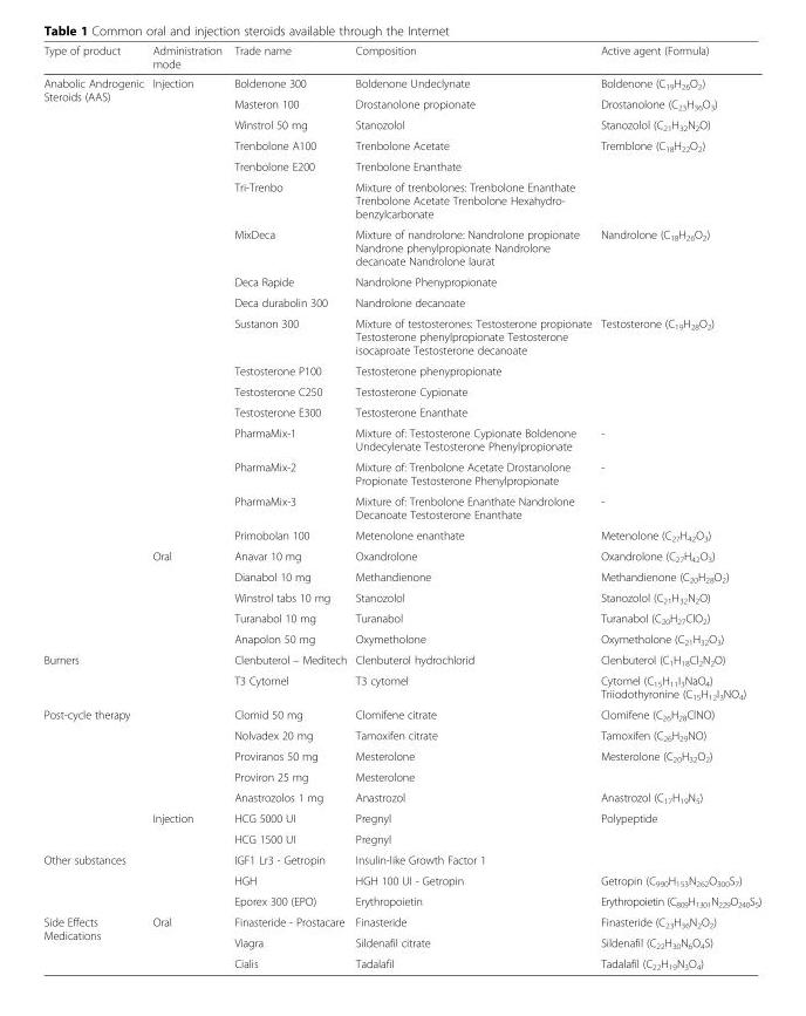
<table><thead><tr><td>Type of product</td><td>Administration mode</td><td>Trade name</td><td>Composition</td><td>Active agent (Formula)</td></tr></thead><tbody><tr><td rowspan="22">Anabolic Androgenic Steroids (AAS)</td><td rowspan="17">Injection</td><td>Boldenone 300</td><td>Boldenone Undeclynate</td><td>Boldenone (C<sub>19</sub>H<sub>26</sub>O<sub>2</sub>)</td></tr><tr><td>Masteron 100</td><td>Drostanolone propionate</td><td>Drostanolone (C<sub>23</sub>H<sub>36</sub>O<sub>3</sub>)</td></tr><tr><td>Winstrol 50 mg</td><td>Stanozolol</td><td>Stanozolol (C<sub>21</sub>H<sub>32</sub>N<sub>2</sub>O)</td></tr><tr><td>Trenbolone A100</td><td>Trenbolone Acetate</td><td rowspan="3">Tremblone (C<sub>18</sub>H<sub>22</sub>O<sub>2</sub>)</td></tr><tr><td>Trenbolone E200</td><td>Trenbolone Enanthate</td></tr><tr><td>Tri-Trenbo</td><td>Mixture of trenbolones: Trenbolone Enanthate Trenbolone Acetate Trenbolone Hexahydro- benzylcarbonate</td></tr><tr><td>MixDeca</td><td>Mixture of nandrolone: Nandrolone propionate Nandrone phenylpropionate Nandrolone decanoate Nandrolone laurat</td><td rowspan="3">Nandrolone (C<sub>18</sub>H<sub>26</sub>O<sub>2</sub>)</td></tr><tr><td>Deca Rapide</td><td>Nandrolone Phenypropionate</td></tr><tr><td>Deca durabolin 300</td><td>Nandrolone decanoate</td></tr><tr><td>Sustanon 300</td><td>Mixture of testosterones: Testosterone propionate Testosterone phenylpropionate Testosterone isocaproate Testosterone decanoate</td><td rowspan="4">Testosterone (C<sub>19</sub>H<sub>28</sub>O<sub>2</sub>)</td></tr><tr><td>Testosterone P100</td><td>Testosterone phenypropionate</td></tr><tr><td>Testosterone C250</td><td>Testosterone Cypionate</td></tr><tr><td>Testosterone E300</td><td>Testosterone Enanthate</td></tr><tr><td>PharmaMix-1</td><td>Mixture of: Testosterone Cypionate Boldenone Undecylenate Testosterone Phenylpropionate</td><td>-</td></tr><tr><td>PharmaMix-2</td><td>Mixture of: Trenbolone Acetate Drostanolone Propionate Testosterone Phenylpropionate</td><td>-</td></tr><tr><td>PharmaMix-3</td><td>Mixture of: Trenbolone Enanthate Nandrolone Decanoate Testosterone Enanthate</td><td>-</td></tr><tr><td>Primobolan 100</td><td>Metenolone enanthate</td><td>Metenolone (C<sub>27</sub>H<sub>42</sub>O<sub>3</sub>)</td></tr><tr><td rowspan="12">Oral</td><td>Anavar 10 mg</td><td>Oxandrolone</td><td>Oxandrolone (C<sub>27</sub>H<sub>42</sub>O<sub>3</sub>)</td></tr><tr><td>Dianabol 10 mg</td><td>Methandienone</td><td>Methandienone (C<sub>20</sub>H<sub>28</sub>O<sub>2</sub>)</td></tr><tr><td>Winstrol tabs 10 mg</td><td>Stanozolol</td><td>Stanozolol (C<sub>21</sub>H<sub>32</sub>N<sub>2</sub>O)</td></tr><tr><td>Turanabol 10 mg</td><td>Turanabol</td><td>Turanabol (C<sub>20</sub>H<sub>27</sub>ClO<sub>2</sub>)</td></tr><tr><td>Anapolon 50 mg</td><td>Oxymetholone</td><td>Oxymetholone (C<sub>21</sub>H<sub>32</sub>O<sub>3</sub>)</td></tr><tr><td rowspan="2">Burners</td><td>Clenbuterol – Meditech</td><td>Clenbuterol hydrochlorid</td><td>Clenbuterol (C<sub>1</sub>H<sub>18</sub>Cl<sub>2</sub>N<sub>2</sub>O)</td></tr><tr><td>T3 Cytomel</td><td>T3 cytomel</td><td>Cytomel (C<sub>15</sub>H<sub>11</sub>I<sub>3</sub>NaO<sub>4</sub>) Triiodothyronine (C<sub>15</sub>H<sub>12</sub>I<sub>3</sub>NO<sub>4</sub>)</td></tr><tr><td rowspan="7">Post-cycle therapy</td><td>Clomid 50 mg</td><td>Clomifene citrate</td><td>Clomifene (C<sub>26</sub>H<sub>28</sub>ClNO)</td></tr><tr><td>Nolvadex 20 mg</td><td>Tamoxifen citrate</td><td>Tamoxifen (C<sub>26</sub>H<sub>29</sub>NO)</td></tr><tr><td>Proviranos 50 mg</td><td>Mesterolone</td><td rowspan="2">Mesterolone (C<sub>20</sub>H<sub>32</sub>O<sub>2</sub>)</td></tr><tr><td>Proviron 25 mg</td><td>Mesterolone</td></tr><tr><td>Anastrozolos 1 mg</td><td>Anastrozol</td><td>Anastrozol (C<sub>17</sub>H<sub>19</sub>N<sub>5</sub>)</td></tr><tr><td rowspan="5">Injection</td><td>HCG 5000 UI</td><td>Pregnyl</td><td rowspan="3">Polypeptide</td></tr><tr><td>HCG 1500 UI</td><td>Pregnyl</td></tr><tr><td rowspan="3">Other substances</td><td>IGF1 Lr3 - Getropin</td><td>Insulin-like Growth Factor 1</td></tr><tr><td>HGH</td><td>HGH 100 UI - Getropin</td><td>Getropin (C<sub>990</sub>H<sub>153</sub>N<sub>262</sub>O<sub>300</sub>S<sub>7</sub>)</td></tr><tr><td>Eporex 300 (EPO)</td><td>Erythropoietin</td><td>Erythropoietin (C<sub>809</sub>H<sub>1301</sub>N<sub>229</sub>O<sub>240</sub>S<sub>5</sub>)</td></tr><tr><td rowspan="3">Side Effects Medications</td><td rowspan="3">Oral</td><td>Finasteride - Prostacare</td><td>Finasteride</td><td>Finasteride (C<sub>23</sub>H<sub>36</sub>N<sub>2</sub>O<sub>2</sub>)</td></tr><tr><td>Viagra</td><td>Sildenafil citrate</td><td>Sildenafil (C<sub>22</sub>H<sub>30</sub>N<sub>6</sub>O<sub>4</sub>S)</td></tr><tr><td>Cialis</td><td>Tadalafil</td><td>Tadalafil (C<sub>22</sub>H<sub>19</sub>N<sub>3</sub>O<sub>4</sub>)</td></tr></tbody></table>